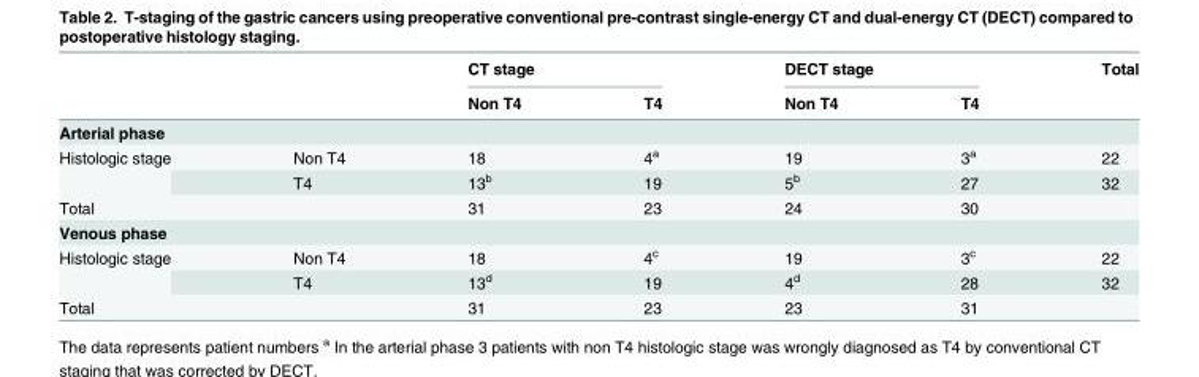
<table><thead><tr><td rowspan="2"></td><td rowspan="2"></td><td colspan="2">CT stage</td><td colspan="2">DECT stage</td><td rowspan="2">Total</td></tr><tr><td>Non T4</td><td>T4</td><td>Non T4</td><td>T4</td></tr></thead><tbody><tr><td colspan="7">Arterial phase</td></tr><tr><td rowspan="2">Histologic stage</td><td>Non T4</td><td>18</td><td>4<sup>a</sup></td><td>19</td><td>3<sup>a</sup></td><td>22</td></tr><tr><td>T4</td><td>13<sup>b</sup></td><td>19</td><td>5<sup>b</sup></td><td>27</td><td>32</td></tr><tr><td colspan="2">Total</td><td>31</td><td>23</td><td>24</td><td>30</td><td></td></tr><tr><td colspan="7">Venous phase</td></tr><tr><td rowspan="2">Histologic stage</td><td>Non T4</td><td>18</td><td>4<sup>c</sup></td><td>19</td><td>3<sup>c</sup></td><td>22</td></tr><tr><td>T4</td><td>13<sup>d</sup></td><td>19</td><td>4<sup>d</sup></td><td>28</td><td>32</td></tr><tr><td colspan="2">Total</td><td>31</td><td>23</td><td>23</td><td>31</td><td></td></tr></tbody></table>